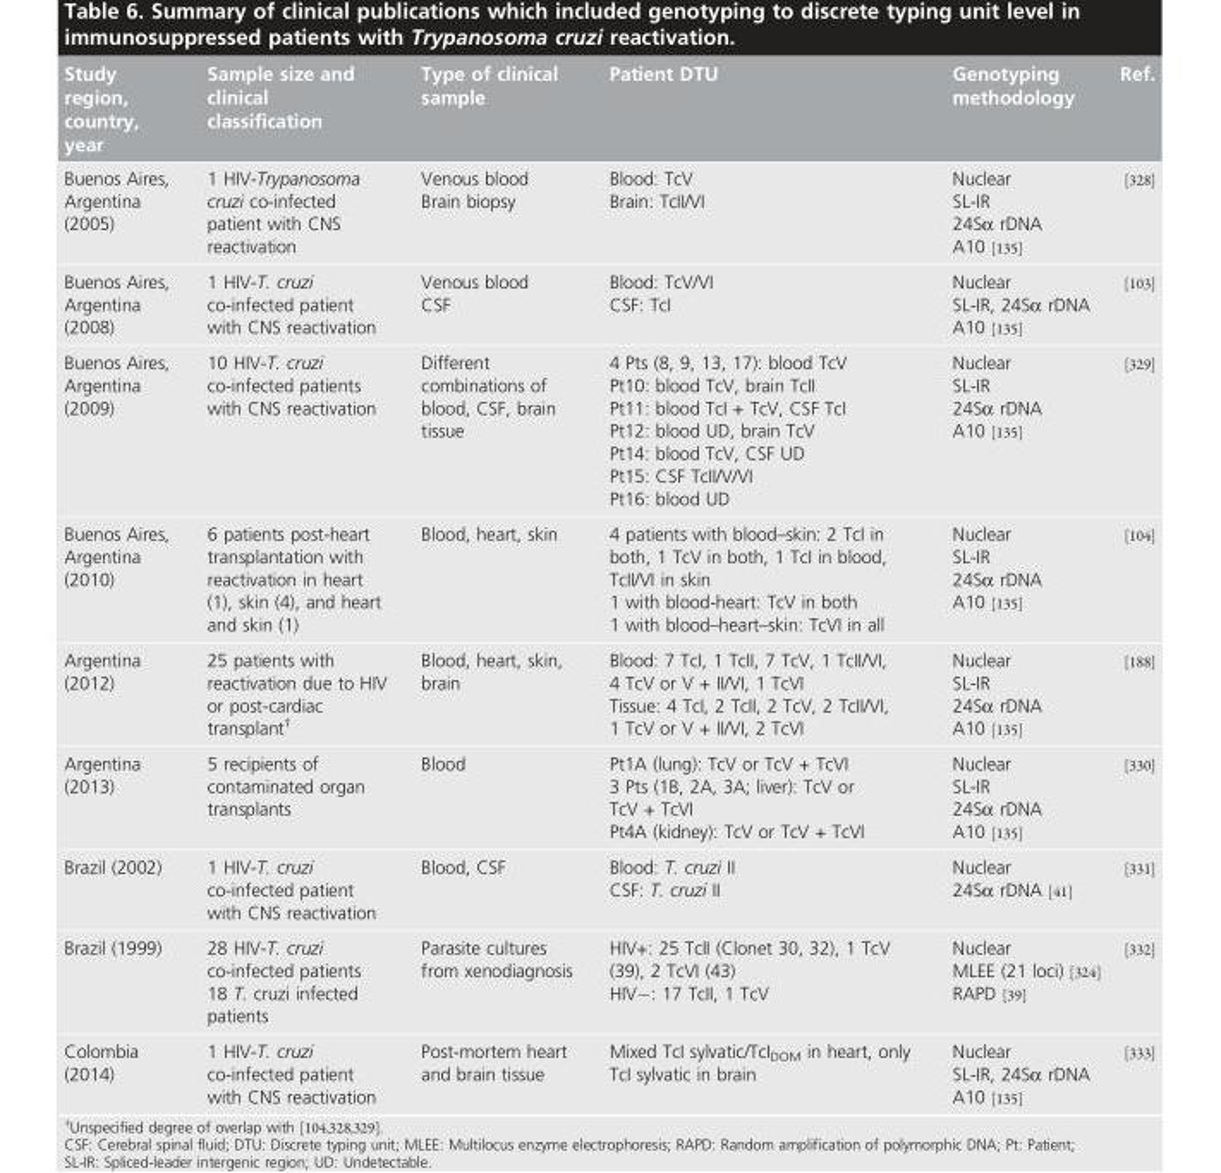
<table><thead><tr><td>Study region, country, year</td><td>Sample size and clinical classification</td><td>Type of clinical sample</td><td>Patient DTU</td><td>Genotyping methodology</td><td>Ref.</td></tr></thead><tbody><tr><td>Buenos Aires, Argentina (2005)</td><td>1 HIV-Trypanosoma cruzi co-infected patient with CNS reactivation</td><td>Venous blood Brain biopsy</td><td>Blood: TcV Brain: TcII/VI</td><td>Nuclear SL-IR 24Sα rDNA A10 [135]</td><td>[328]</td></tr><tr><td>Buenos Aires, Argentina (2008)</td><td>1 HIV-T. cruzi co-infected patient with CNS reactivation</td><td>Venous blood CSF</td><td>Blood: TcV/VI CSF: TcI</td><td>Nuclear SL-IR, 24Sα rDNA A10 [135]</td><td>[103]</td></tr><tr><td>Buenos Aires, Argentina (2009)</td><td>10 HIV-T. cruzi co-infected patients with CNS reactivation</td><td>Different combinations of blood, CSF, brain tissue</td><td>4 Pts (8, 9, 13, 17): blood TcV Pt10: blood TcV, brain TcII Pt11: blood TcI + TcV, CSF TcI Pt12: blood UD, brain TcV Pt14: blood TcV, CSF UD Pt15: CSF TcII/V/VI Pt16: blood UD</td><td>Nuclear SL-IR 24Sα rDNA A10 [135]</td><td>[329]</td></tr><tr><td>Buenos Aires, Argentina (2010)</td><td>6 patients post-heart transplantation with reactivation in heart (1), skin (4), and heart and skin (1)</td><td>Blood, heart, skin</td><td>4 patients with blood–skin: 2 TcI in both, 1 TcV in both, 1 TcI in blood, TcII/VI in skin 1 with blood-heart: TcV in both 1 with blood–heart–skin: TcVI in all</td><td>Nuclear SL-IR 24Sα rDNA A10 [135]</td><td>[104]</td></tr><tr><td>Argentina (2012)</td><td>25 patients with reactivation due to HIV or post-cardiac transplant<sup>†</sup></td><td>Blood, heart, skin, brain</td><td>Blood: 7 TcI, 1 TcII, 7 TcV, 1 TcII/VI, 4 TcV or V + II/VI, 1 TcVI Tissue: 4 TcI, 2 TcII, 2 TcV, 2 TcII/VI, 1 TcV or V + II/VI, 2 TcVI</td><td>Nuclear SL-IR 24Sα rDNA A10 [135]</td><td>[188]</td></tr><tr><td>Argentina (2013)</td><td>5 recipients of contaminated organ transplants</td><td>Blood</td><td>Pt1A (lung): TcV or TcV + TcVI 3 Pts (1B, 2A, 3A; liver): TcV or TcV + TcVI Pt4A (kidney): TcV or TcV + TcVI</td><td>Nuclear SL-IR 24Sα rDNA A10 [135]</td><td>[330]</td></tr><tr><td>Brazil (2002)</td><td>1 HIV-T. cruzi co-infected patient with CNS reactivation</td><td>Blood, CSF</td><td>Blood: T. cruzi II CSF: T. cruzi II</td><td>Nuclear 24Sα rDNA [41]</td><td>[331]</td></tr><tr><td>Brazil (1999)</td><td>28 HIV-T. cruzi co-infected patients 18 T. cruzi infected patients</td><td>Parasite cultures from xenodiagnosis</td><td>HIV+: 25 TcII (Clonet 30, 32), 1 TcV (39), 2 TcVI (43) HIV−: 17 TcII, 1 TcV</td><td>Nuclear MLEE (21 loci) [324] RAPD [39]</td><td>[332]</td></tr><tr><td>Colombia (2014)</td><td>1 HIV-T. cruzi co-infected patient with CNS reactivation</td><td>Post-mortem heart and brain tissue</td><td>Mixed TcI sylvatic/TcI<sub>DOM</sub> in heart, only TcI sylvatic in brain</td><td>Nuclear SL-IR, 24Sα rDNA A10 [135]</td><td>[333]</td></tr></tbody></table>